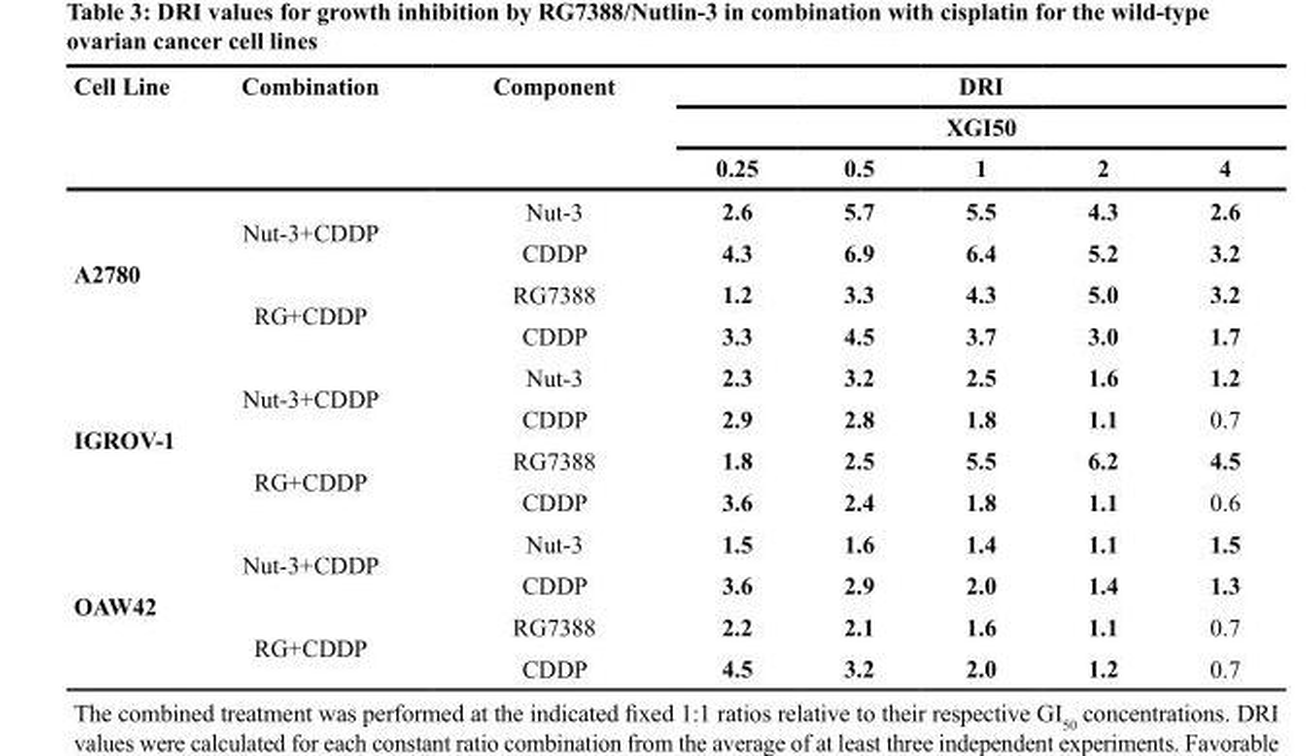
<table><thead><tr><td rowspan="3">Cell Line</td><td rowspan="3">Combination</td><td rowspan="3">Component</td><td rowspan="2" colspan="5">DRI XGI50</td></tr><tr></tr><tr><td>0.25</td><td>0.5</td><td>1</td><td>2</td><td>4</td></tr></thead><tbody><tr><td rowspan="4">A2780</td><td rowspan="2">Nut-3+CDDP</td><td>Nut-3</td><td>2.6</td><td>5.7</td><td>5.5</td><td>4.3</td><td>2.6</td></tr><tr><td>CDDP</td><td>4.3</td><td>6.9</td><td>6.4</td><td>5.2</td><td>3.2</td></tr><tr><td rowspan="2">RG+CDDP</td><td>RG7388</td><td>1.2</td><td>3.3</td><td>4.3</td><td>5.0</td><td>3.2</td></tr><tr><td>CDDP</td><td>3.3</td><td>4.5</td><td>3.7</td><td>3.0</td><td>1.7</td></tr><tr><td rowspan="4">IGROV-1</td><td rowspan="2">Nut-3+CDDP</td><td>Nut-3</td><td>2.3</td><td>3.2</td><td>2.5</td><td>1.6</td><td>1.2</td></tr><tr><td>CDDP</td><td>2.9</td><td>2.8</td><td>1.8</td><td>1.1</td><td>0.7</td></tr><tr><td rowspan="2">RG+CDDP</td><td>RG7388</td><td>1.8</td><td>2.5</td><td>5.5</td><td>6.2</td><td>4.5</td></tr><tr><td>CDDP</td><td>3.6</td><td>2.4</td><td>1.8</td><td>1.1</td><td>0.6</td></tr><tr><td rowspan="4">OAW42</td><td rowspan="2">Nut-3+CDDP</td><td>Nut-3</td><td>1.5</td><td>1.6</td><td>1.4</td><td>1.1</td><td>1.5</td></tr><tr><td>CDDP</td><td>3.6</td><td>2.9</td><td>2.0</td><td>1.4</td><td>1.3</td></tr><tr><td rowspan="2">RG+CDDP</td><td>RG7388</td><td>2.2</td><td>2.1</td><td>1.6</td><td>1.1</td><td>0.7</td></tr><tr><td>CDDP</td><td>4.5</td><td>3.2</td><td>2.0</td><td>1.2</td><td>0.7</td></tr></tbody></table>